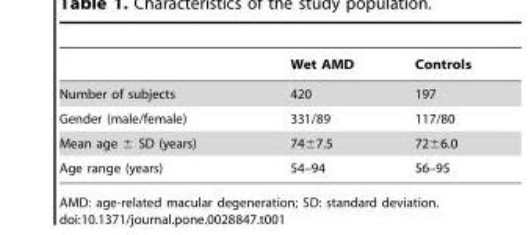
<table><thead><tr><td></td><td>Wet AMD</td><td>Controls</td></tr></thead><tbody><tr><td>Number of subjects</td><td>420</td><td>197</td></tr><tr><td>Gender (male/female)</td><td>331/89</td><td>117/80</td></tr><tr><td>Mean age ± SD (years)</td><td>74±7.5</td><td>72±6.0</td></tr><tr><td>Age range (years)</td><td>54–94</td><td>56–95</td></tr></tbody></table>